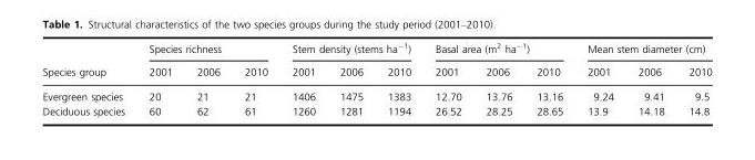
<table><thead><tr><td rowspan="2">Species group</td><td colspan="3">Species richness</td><td colspan="3">Stem density (stems ha<sup>−1</sup>)</td><td colspan="3">Basal area (m<sup>2</sup> ha<sup>−1</sup>)</td><td colspan="3">Mean stem diameter (cm)</td></tr><tr><td>2001</td><td>2006</td><td>2010</td><td>2001</td><td>2006</td><td>2010</td><td>2001</td><td>2006</td><td>2010</td><td>2001</td><td>2006</td><td>2010</td></tr></thead><tbody><tr><td>Evergreen species</td><td>20</td><td>21</td><td>21</td><td>1406</td><td>1475</td><td>1383</td><td>12.70</td><td>13.76</td><td>13.16</td><td>9.24</td><td>9.41</td><td>9.5</td></tr><tr><td>Deciduous species</td><td>60</td><td>62</td><td>61</td><td>1260</td><td>1281</td><td>1194</td><td>26.52</td><td>28.25</td><td>28.65</td><td>13.9</td><td>14.18</td><td>14.8</td></tr></tbody></table>